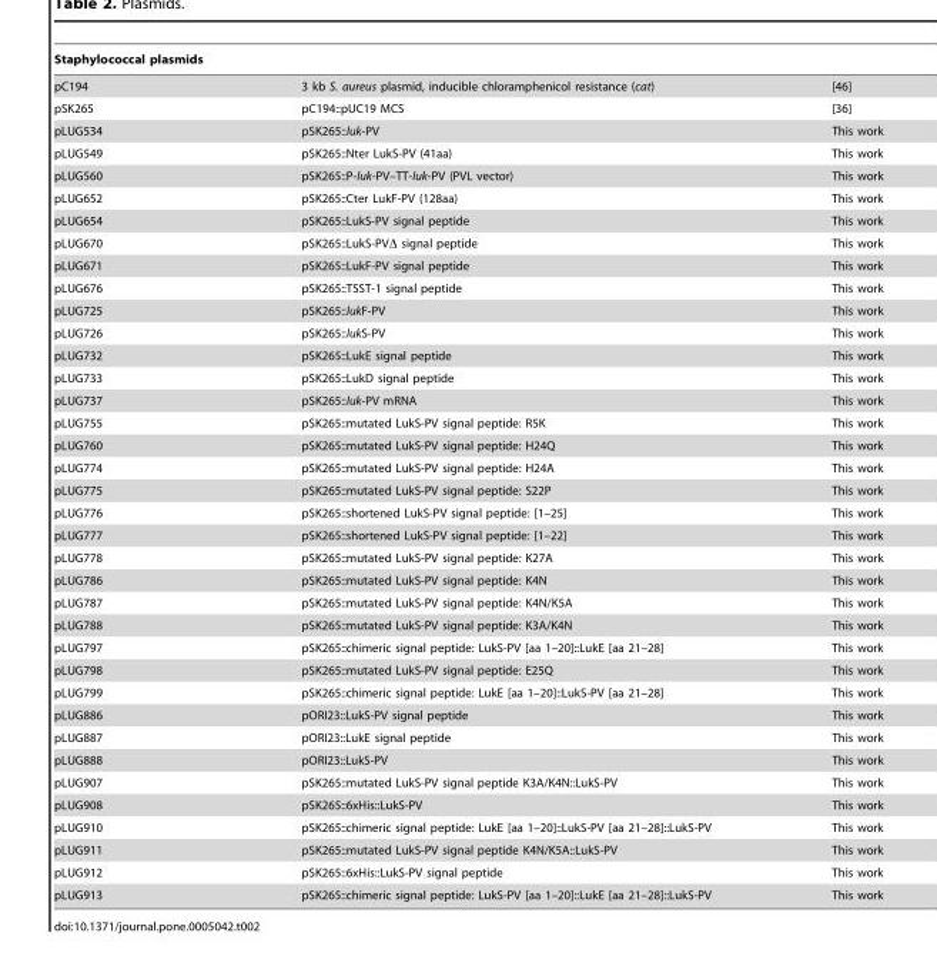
<table><thead><tr><td colspan="3">Staphylococcal plasmids</td></tr><tr><td>pC194</td><td>3 kb S. aureus plasmid, inducible chloramphenicol resistance (cat)</td><td>[46]</td></tr></thead><tbody><tr><td>pSK265</td><td>pC194::pUC19 MCS</td><td>[36]</td></tr><tr><td>pLUG534</td><td>pSK265::luk-PV</td><td>This work</td></tr><tr><td>pLUG549</td><td>pSK265::Nter LukS-PV (41aa)</td><td>This work</td></tr><tr><td>pLUG560</td><td>pSK265::P-luk-PV–TT-luk-PV (PVL vector)</td><td>This work</td></tr><tr><td>pLUG652</td><td>pSK265::Cter LukF-PV (128aa)</td><td>This work</td></tr><tr><td>pLUG654</td><td>pSK265::LukS-PV signal peptide</td><td>This work</td></tr><tr><td>pLUG670</td><td>pSK265::LukS-PVΔ signal peptide</td><td>This work</td></tr><tr><td>pLUG671</td><td>pSK265::LukF-PV signal peptide</td><td>This work</td></tr><tr><td>pLUG676</td><td>pSK265::TSST-1 signal peptide</td><td>This work</td></tr><tr><td>pLUG725</td><td>pSK265::lukF-PV</td><td>This work</td></tr><tr><td>pLUG726</td><td>pSK265::lukS-PV</td><td>This work</td></tr><tr><td>pLUG732</td><td>pSK265::LukE signal peptide</td><td>This work</td></tr><tr><td>pLUG733</td><td>pSK265::LukD signal peptide</td><td>This work</td></tr><tr><td>pLUG737</td><td>pSK265::luk-PV mRNA</td><td>This work</td></tr><tr><td>pLUG755</td><td>pSK265::mutated LukS-PV signal peptide: R5K</td><td>This work</td></tr><tr><td>pLUG760</td><td>pSK265::mutated LukS-PV signal peptide: H24Q</td><td>This work</td></tr><tr><td>pLUG774</td><td>pSK265::mutated LukS-PV signal peptide: H24A</td><td>This work</td></tr><tr><td>pLUG775</td><td>pSK265::mutated LukS-PV signal peptide: S22P</td><td>This work</td></tr><tr><td>pLUG776</td><td>pSK265::shortened LukS-PV signal peptide: [1–25]</td><td>This work</td></tr><tr><td>pLUG777</td><td>pSK265::shortened LukS-PV signal peptide: [1–22]</td><td>This work</td></tr><tr><td>pLUG778</td><td>pSK265::mutated LukS-PV signal peptide: K27A</td><td>This work</td></tr><tr><td>pLUG786</td><td>pSK265::mutated LukS-PV signal peptide: K4N</td><td>This work</td></tr><tr><td>pLUG787</td><td>pSK265::mutated LukS-PV signal peptide: K4N/K5A</td><td>This work</td></tr><tr><td>pLUG788</td><td>pSK265::mutated LukS-PV signal peptide: K3A/K4N</td><td>This work</td></tr><tr><td>pLUG797</td><td>pSK265::chimeric signal peptide: LukS-PV [aa 1–20]::LukE [aa 21–28]</td><td>This work</td></tr><tr><td>pLUG798</td><td>pSK265::mutated LukS-PV signal peptide: E25Q</td><td>This work</td></tr><tr><td>pLUG799</td><td>pSK265::chimeric signal peptide: LukE [aa 1–20]::LukS-PV [aa 21–28]</td><td>This work</td></tr><tr><td>pLUG886</td><td>pORI23::LukS-PV signal peptide</td><td>This work</td></tr><tr><td>pLUG887</td><td>pORI23::LukE signal peptide</td><td>This work</td></tr><tr><td>pLUG888</td><td>pORI23::LukS-PV</td><td>This work</td></tr><tr><td>pLUG907</td><td>pSK265::mutated LukS-PV signal peptide K3A/K4N::LukS-PV</td><td>This work</td></tr><tr><td>pLUG908</td><td>pSK265::6xHis::LukS-PV</td><td>This work</td></tr><tr><td>pLUG910</td><td>pSK265::chimeric signal peptide: LukE [aa 1–20]::LukS-PV [aa 21–28]::LukS-PV</td><td>This work</td></tr><tr><td>pLUG911</td><td>pSK265::mutated LukS-PV signal peptide K4N/K5A::LukS-PV</td><td>This work</td></tr><tr><td>pLUG912</td><td>pSK265::6xHis::LukS-PV signal peptide</td><td>This work</td></tr><tr><td>pLUG913</td><td>pSK265::chimeric signal peptide: LukS-PV [aa 1–20]::LukE [aa 21–28]::LukS-PV</td><td>This work</td></tr></tbody></table>